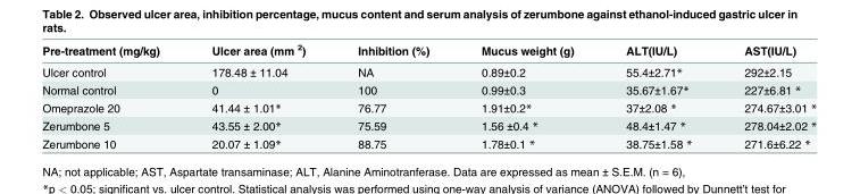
<table><thead><tr><td>Pre-treatment (mg/kg)</td><td>Ulcer area (mm 2)</td><td>Inhibition (%)</td><td>Mucus weight (g)</td><td>ALT(IU/L)</td><td>AST(IU/L)</td></tr></thead><tbody><tr><td>Ulcer control</td><td>178.48 ± 11.04</td><td>NA</td><td>0.89±0.2</td><td>55.4±2.71*</td><td>292±2.15</td></tr><tr><td>Normal control</td><td>0</td><td>100</td><td>0.99±0.3</td><td>35.67±1.67*</td><td>227±6.81 *</td></tr><tr><td>Omeprazole 20</td><td>41.44 ± 1.01*</td><td>76.77</td><td>1.91±0.2*</td><td>37±2.08 *</td><td>274.67±3.01 *</td></tr><tr><td>Zerumbone 5</td><td>43.55 ± 2.00*</td><td>75.59</td><td>1.56 ±0.4 *</td><td>48.4±1.47 *</td><td>278.04±2.02 *</td></tr><tr><td>Zerumbone 10</td><td>20.07 ± 1.09*</td><td>88.75</td><td>1.78±0.1 *</td><td>38.75±1.58 *</td><td>271.6±6.22 *</td></tr></tbody></table>